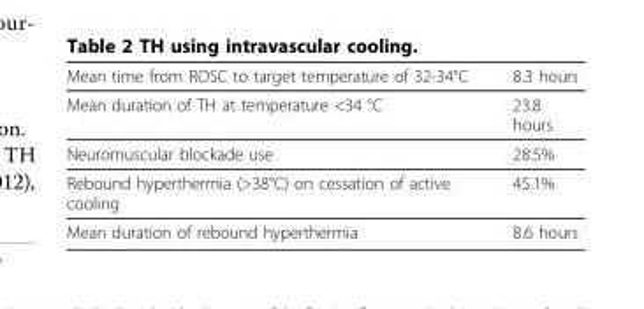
<table><tbody><tr><td>Mean time from ROSC to target temperature of 32-34°C</td><td>8.3 hours</td></tr><tr><td>Mean duration of TH at temperature &lt;34 °C</td><td>23.8 hours</td></tr><tr><td>Neuromuscular blockade use</td><td>28.5%</td></tr><tr><td>Rebound hyperthermia (&gt;38°C) on cessation of active cooling</td><td>45.1%</td></tr><tr><td>Mean duration of rebound hyperthermia</td><td>8.6 hours</td></tr></tbody></table>